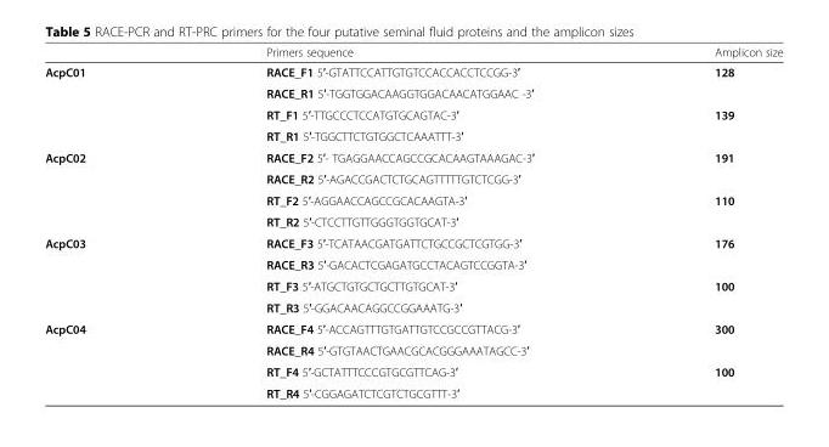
<table><thead><tr><td></td><td>Primers sequence</td><td>Amplicon size</td></tr></thead><tbody><tr><td rowspan="4">AcpC01</td><td>RACE_F1 5′-GTATTCCATTGTGTCCACCACCTCCGG-3′</td><td rowspan="2">128</td></tr><tr><td>RACE_R1 5′-TGGTGGACAAGGTGGACAACATGGAAC -3′</td></tr><tr><td>RT_F1 5′-TTGCCCTCCATGTGCAGTAC-3′</td><td rowspan="2">139</td></tr><tr><td>RT_R1 5′-TGGCTTCTGTGGCTCAAATTT-3′</td></tr><tr><td rowspan="4">AcpC02</td><td>RACE_F2 5′- TGAGGAACCAGCCGCACAAGTAAAGAC-3′</td><td rowspan="2">191</td></tr><tr><td>RACE_R2 5′-AGACCGACTCTGCAGTTTTTGTCTCGG-3′</td></tr><tr><td>RT_F2 5′-AGGAACCAGCCGCACAAGTA-3′</td><td rowspan="2">110</td></tr><tr><td>RT_R2 5′-CTCCTTGTTGGGTGGTGCAT-3′</td></tr><tr><td rowspan="4">AcpC03</td><td>RACE_F3 5′-TCATAACGATGATTCTGCCGCTCGTGG-3′</td><td rowspan="2">176</td></tr><tr><td>RACE_R3 5′-GACACTCGAGATGCCTACAGTCCGGTA-3′</td></tr><tr><td>RT_F3 5′-ATGCTGTGCTGCTTGTGCAT-3′</td><td rowspan="2">100</td></tr><tr><td>RT_R3 5′-GGACAACAGGCCGGAAATG-3′</td></tr><tr><td rowspan="4">AcpC04</td><td>RACE_F4 5′-ACCAGTTTGTGATTGTCCGCCGTTACG-3′</td><td rowspan="2">300</td></tr><tr><td>RACE_R4 5′-GTGTAACTGAACGCACGGGAAATAGCC-3′</td></tr><tr><td>RT_F4 5′-GCTATTTCCCGTGCGTTCAG-3′</td><td rowspan="2">100</td></tr><tr><td>RT_R4 5′-CGGAGATCTCGTCTGCGTTT-3′</td></tr></tbody></table>